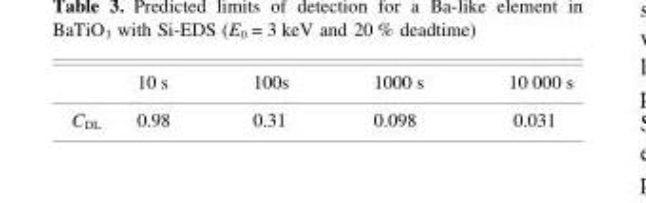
<table><thead><tr><td></td><td>10 s</td><td>100s</td><td>1000 s</td><td>10 000 s</td></tr></thead><tbody><tr><td>C<sub>DL</sub></td><td>0.98</td><td>0.31</td><td>0.098</td><td>0.031</td></tr></tbody></table>